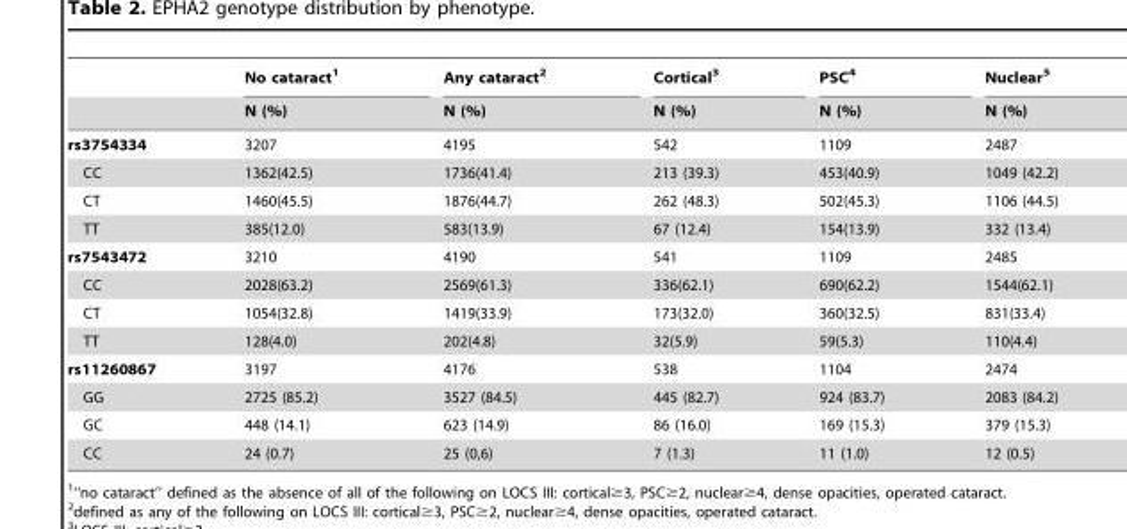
<table><thead><tr><td rowspan="2"></td><td rowspan="2">No cataract<sup>1</sup> N (%)</td><td rowspan="2">Any cataract<sup>2</sup> N (%)</td><td rowspan="2">Cortical<sup>3</sup> N (%)</td><td rowspan="2">PSC<sup>4</sup> N (%)</td><td rowspan="2">Nuclear<sup>5</sup> N (%)</td></tr><tr></tr></thead><tbody><tr><td>rs3754334</td><td>3207</td><td>4195</td><td>542</td><td>1109</td><td>2487</td></tr><tr><td>CC</td><td>1362(42.5)</td><td>1736(41.4)</td><td>213 (39.3)</td><td>453(40.9)</td><td>1049 (42.2)</td></tr><tr><td>CT</td><td>1460(45.5)</td><td>1876(44.7)</td><td>262 (48.3)</td><td>502(45.3)</td><td>1106 (44.5)</td></tr><tr><td>TT</td><td>385(12.0)</td><td>583(13.9)</td><td>67 (12.4)</td><td>154(13.9)</td><td>332 (13.4)</td></tr><tr><td>rs7543472</td><td>3210</td><td>4190</td><td>541</td><td>1109</td><td>2485</td></tr><tr><td>CC</td><td>2028(63.2)</td><td>2569(61.3)</td><td>336(62.1)</td><td>690(62.2)</td><td>1544(62.1)</td></tr><tr><td>CT</td><td>1054(32.8)</td><td>1419(33.9)</td><td>173(32.0)</td><td>360(32.5)</td><td>831(33.4)</td></tr><tr><td>TT</td><td>128(4.0)</td><td>202(4.8)</td><td>32(5.9)</td><td>59(5.3)</td><td>110(4.4)</td></tr><tr><td>rs11260867</td><td>3197</td><td>4176</td><td>538</td><td>1104</td><td>2474</td></tr><tr><td>GG</td><td>2725 (85.2)</td><td>3527 (84.5)</td><td>445 (82.7)</td><td>924 (83.7)</td><td>2083 (84.2)</td></tr><tr><td>GC</td><td>448 (14.1)</td><td>623 (14.9)</td><td>86 (16.0)</td><td>169 (15.3)</td><td>379 (15.3)</td></tr><tr><td>CC</td><td>24 (0.7)</td><td>25 (0,6)</td><td>7 (1.3)</td><td>11 (1.0)</td><td>12 (0.5)</td></tr></tbody></table>